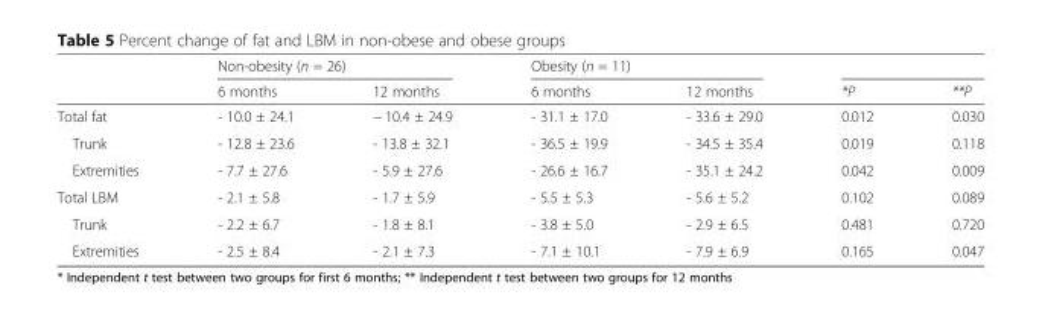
<table><thead><tr><td rowspan="2"></td><td colspan="2">Non-obesity (n = 26)</td><td colspan="2">Obesity (n = 11)</td><td rowspan="2">*P</td><td rowspan="2">**P</td></tr><tr><td>6 months</td><td>12 months</td><td>6 months</td><td>12 months</td></tr></thead><tbody><tr><td>Total fat</td><td>- 10.0 ± 24.1</td><td>− 10.4 ± 24.9</td><td>- 31.1 ± 17.0</td><td>- 33.6 ± 29.0</td><td>0.012</td><td>0.030</td></tr><tr><td>Trunk</td><td>- 12.8 ± 23.6</td><td>- 13.8 ± 32.1</td><td>- 36.5 ± 19.9</td><td>- 34.5 ± 35.4</td><td>0.019</td><td>0.118</td></tr><tr><td>Extremities</td><td>- 7.7 ± 27.6</td><td>- 5.9 ± 27.6</td><td>- 26.6 ± 16.7</td><td>- 35.1 ± 24.2</td><td>0.042</td><td>0.009</td></tr><tr><td>Total LBM</td><td>- 2.1 ± 5.8</td><td>- 1.7 ± 5.9</td><td>- 5.5 ± 5.3</td><td>- 5.6 ± 5.2</td><td>0.102</td><td>0.089</td></tr><tr><td>Trunk</td><td>- 2.2 ± 6.7</td><td>- 1.8 ± 8.1</td><td>- 3.8 ± 5.0</td><td>- 2.9 ± 6.5</td><td>0.481</td><td>0.720</td></tr><tr><td>Extremities</td><td>- 2.5 ± 8.4</td><td>- 2.1 ± 7.3</td><td>- 7.1 ± 10.1</td><td>- 7.9 ± 6.9</td><td>0.165</td><td>0.047</td></tr></tbody></table>